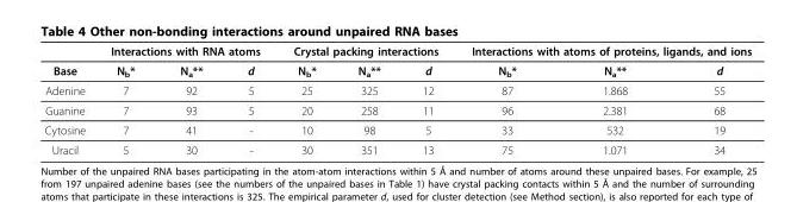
<table><thead><tr><td rowspan="2">Base</td><td colspan="3">Interactions with RNA atoms</td><td colspan="3">Crystal packing interactions</td><td colspan="3">Interactions with atoms of proteins, ligands, and ions</td></tr><tr><td>N<sub>b</sub>*</td><td>N<sub>a</sub>**</td><td>d</td><td>N<sub>b</sub>*</td><td>N<sub>a</sub>**</td><td>d</td><td>N<sub>b</sub>*</td><td>N<sub>a</sub>**</td><td>d</td></tr></thead><tbody><tr><td>Adenine</td><td>7</td><td>92</td><td>5</td><td>25</td><td>325</td><td>12</td><td>87</td><td>1.868</td><td>55</td></tr><tr><td>Guanine</td><td>7</td><td>93</td><td>5</td><td>20</td><td>258</td><td>11</td><td>96</td><td>2.381</td><td>68</td></tr><tr><td>Cytosine</td><td>7</td><td>41</td><td>-</td><td>10</td><td>98</td><td>5</td><td>33</td><td>532</td><td>19</td></tr><tr><td>Uracil</td><td>5</td><td>30</td><td>-</td><td>30</td><td>351</td><td>13</td><td>75</td><td>1.071</td><td>34</td></tr></tbody></table>